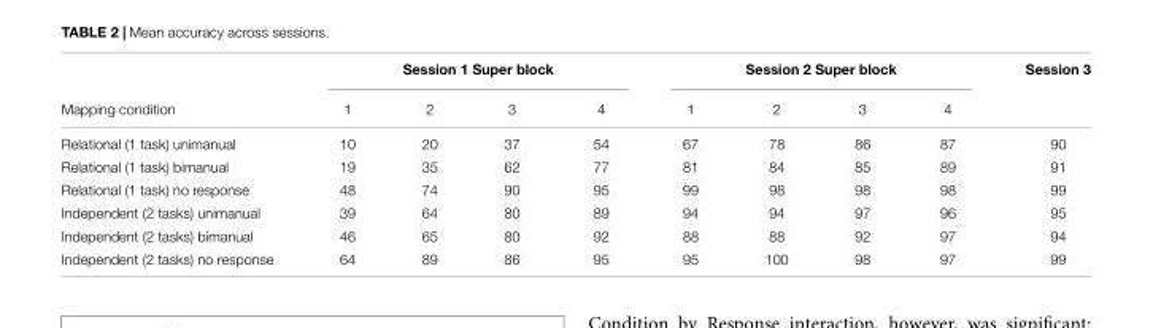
<table><thead><tr><td rowspan="2">Mapping condition</td><td colspan="4">Session 1 Super block</td><td colspan="4">Session 2 Super block</td><td rowspan="2">Session 3</td></tr><tr><td>1</td><td>2</td><td>3</td><td>4</td><td>1</td><td>2</td><td>3</td><td>4</td></tr></thead><tbody><tr><td>Relational (1 task) unimanual</td><td>10</td><td>20</td><td>37</td><td>54</td><td>67</td><td>78</td><td>86</td><td>87</td><td>90</td></tr><tr><td>Relational (1 task) bimanual</td><td>19</td><td>35</td><td>62</td><td>77</td><td>81</td><td>84</td><td>85</td><td>89</td><td>91</td></tr><tr><td>Relational (1 task) no response</td><td>48</td><td>74</td><td>90</td><td>95</td><td>99</td><td>98</td><td>98</td><td>98</td><td>99</td></tr><tr><td>Independent (2 tasks) unimanual</td><td>39</td><td>64</td><td>80</td><td>89</td><td>94</td><td>94</td><td>97</td><td>96</td><td>95</td></tr><tr><td>Independent (2 tasks) bimanual</td><td>46</td><td>65</td><td>80</td><td>92</td><td>88</td><td>88</td><td>92</td><td>97</td><td>94</td></tr><tr><td>Independent (2 tasks) no response</td><td>64</td><td>89</td><td>86</td><td>95</td><td>95</td><td>100</td><td>98</td><td>97</td><td>99</td></tr></tbody></table>